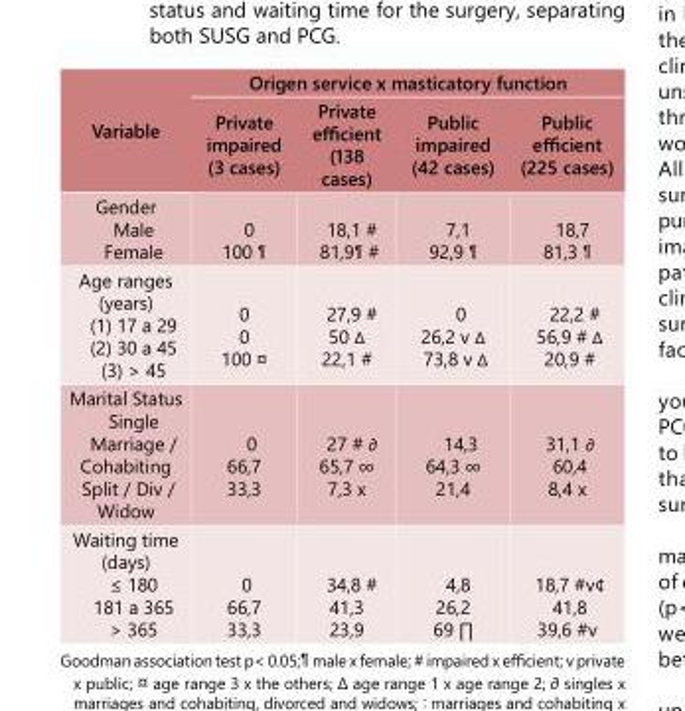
<table><tbody><tr><td rowspan="2">Variable</td><td colspan="4">Origen service x masticatory function</td></tr><tr><td>Private impaired (3 cases)</td><td>Private efficient (138 cases)</td><td>Public impaired (42 cases)</td><td>Public efficient (225 cases)</td></tr><tr><td>Gender Male Female</td><td>0 100 ¶</td><td>18,1 # 81,9¶ #</td><td>7,1 92,9 ¶</td><td>18,7 81,3 ¶</td></tr><tr><td>Age ranges (years) (1) 17 a 29 (2) 30 a 45 (3) &gt; 45</td><td>0 0 100 ¤</td><td>27,9 # 50 ∆ 22,1 #</td><td>0 26,2 v ∆ 73,8 v ∆</td><td>22,2 # 56,9 # ∆ 20,9 #</td></tr><tr><td>Marital Status Single Marriage / Cohabiting Split / Div / Widow</td><td>0 66,7 33,3</td><td>27 # ∂ 65,7 ∞ 7,3 x</td><td>14,3 64,3 ∞ 21,4</td><td>31,1 ∂ 60,4 8,4 x</td></tr><tr><td>Waiting time (days) ≤ 180 181 a 365 &gt; 365</td><td>0 66,7 33,3</td><td>34,8 # 41,3 23,9</td><td>4,8 26,2 69 ∏</td><td>18,7 #v¢ 41,8 39,6 #v</td></tr></tbody></table>